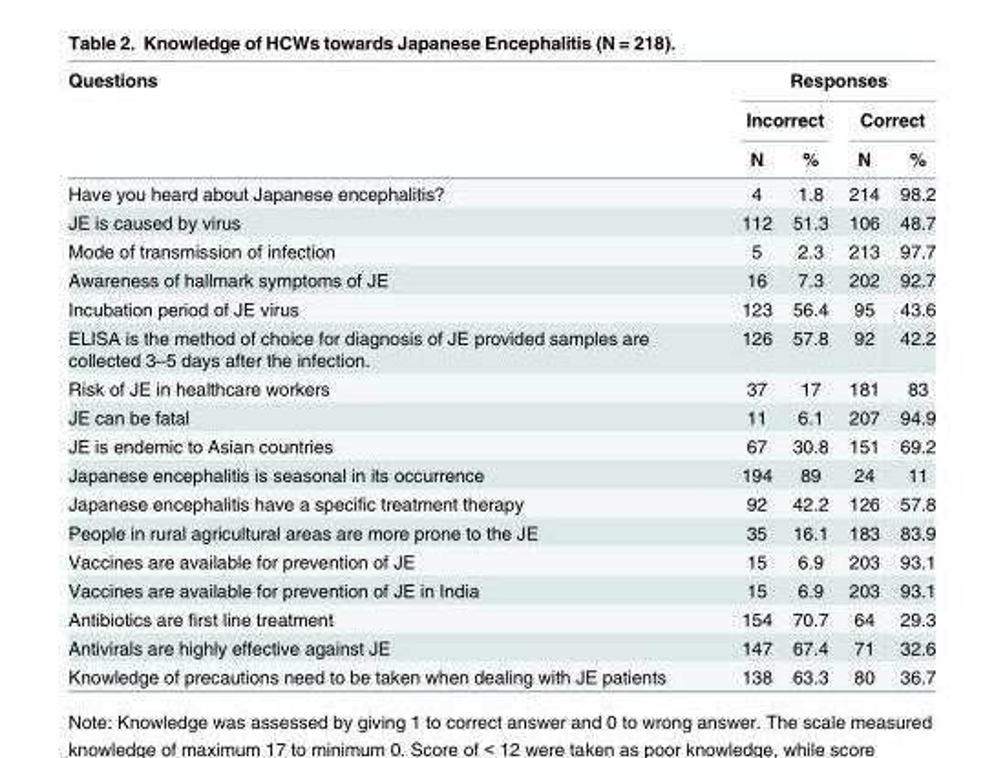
<table><thead><tr><td rowspan="3">Questions</td><td colspan="4">Responses</td></tr><tr><td colspan="2">Incorrect</td><td colspan="2">Correct</td></tr><tr><td>N</td><td>%</td><td>N</td><td>%</td></tr></thead><tbody><tr><td>Have you heard about Japanese encephalitis?</td><td>4</td><td>1.8</td><td>214</td><td>98.2</td></tr><tr><td>JE is caused by virus</td><td>112</td><td>51.3</td><td>106</td><td>48.7</td></tr><tr><td>Mode of transmission of infection</td><td>5</td><td>2.3</td><td>213</td><td>97.7</td></tr><tr><td>Awareness of hallmark symptoms of JE</td><td>16</td><td>7.3</td><td>202</td><td>92.7</td></tr><tr><td>Incubation period of JE virus</td><td>123</td><td>56.4</td><td>95</td><td>43.6</td></tr><tr><td>ELISA is the method of choice for diagnosis of JE provided samples are collected 3–5 days after the infection.</td><td>126</td><td>57.8</td><td>92</td><td>42.2</td></tr><tr><td>Risk of JE in healthcare workers</td><td>37</td><td>17</td><td>181</td><td>83</td></tr><tr><td>JE can be fatal</td><td>11</td><td>6.1</td><td>207</td><td>94.9</td></tr><tr><td>JE is endemic to Asian countries</td><td>67</td><td>30.8</td><td>151</td><td>69.2</td></tr><tr><td>Japanese encephalitis is seasonal in its occurrence</td><td>194</td><td>89</td><td>24</td><td>11</td></tr><tr><td>Japanese encephalitis have a specific treatment therapy</td><td>92</td><td>42.2</td><td>126</td><td>57.8</td></tr><tr><td>People in rural agricultural areas are more prone to the JE</td><td>35</td><td>16.1</td><td>183</td><td>83.9</td></tr><tr><td>Vaccines are available for prevention of JE</td><td>15</td><td>6.9</td><td>203</td><td>93.1</td></tr><tr><td>Vaccines are available for prevention of JE in India</td><td>15</td><td>6.9</td><td>203</td><td>93.1</td></tr><tr><td>Antibiotics are first line treatment</td><td>154</td><td>70.7</td><td>64</td><td>29.3</td></tr><tr><td>Antivirals are highly effective against JE</td><td>147</td><td>67.4</td><td>71</td><td>32.6</td></tr><tr><td>Knowledge of precautions need to be taken when dealing with JE patients</td><td>138</td><td>63.3</td><td>80</td><td>36.7</td></tr></tbody></table>